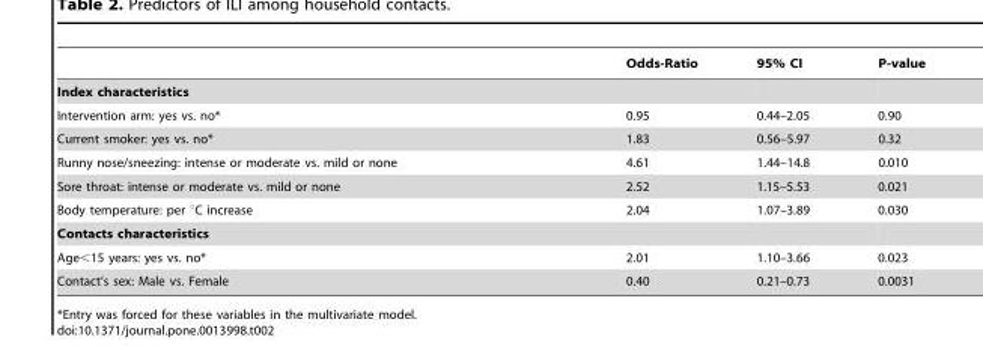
<table><thead><tr><td></td><td>Odds-Ratio</td><td>95% CI</td><td>P-value</td></tr></thead><tbody><tr><td colspan="4">Index characteristics</td></tr><tr><td>Intervention arm: yes vs. no*</td><td>0.95</td><td>0.44–2.05</td><td>0.90</td></tr><tr><td>Current smoker: yes vs. no*</td><td>1.83</td><td>0.56–5.97</td><td>0.32</td></tr><tr><td>Runny nose/sneezing: intense or moderate vs. mild or none</td><td>4.61</td><td>1.44–14.8</td><td>0.010</td></tr><tr><td>Sore throat: intense or moderate vs. mild or none</td><td>2.52</td><td>1.15–5.53</td><td>0.021</td></tr><tr><td>Body temperature: per °C increase</td><td>2.04</td><td>1.07–3.89</td><td>0.030</td></tr><tr><td colspan="4">Contacts characteristics</td></tr><tr><td>Age&lt;15 years: yes vs. no*</td><td>2.01</td><td>1.10–3.66</td><td>0.023</td></tr><tr><td>Contact’s sex: Male vs. Female</td><td>0.40</td><td>0.21–0.73</td><td>0.0031</td></tr></tbody></table>